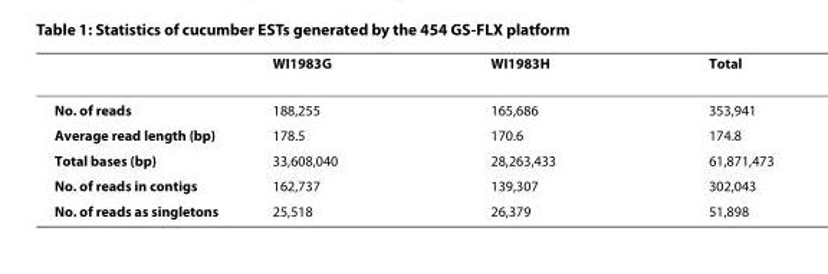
<table><thead><tr><td></td><td>WI1983G</td><td>WI1983H</td><td>Total</td></tr></thead><tbody><tr><td>No. of reads</td><td>188,255</td><td>165,686</td><td>353,941</td></tr><tr><td>Average read length (bp)</td><td>178.5</td><td>170.6</td><td>174.8</td></tr><tr><td>Total bases (bp)</td><td>33,608,040</td><td>28,263,433</td><td>61,871,473</td></tr><tr><td>No. of reads in contigs</td><td>162,737</td><td>139,307</td><td>302,043</td></tr><tr><td>No. of reads as singletons</td><td>25,518</td><td>26,379</td><td>51,898</td></tr></tbody></table>